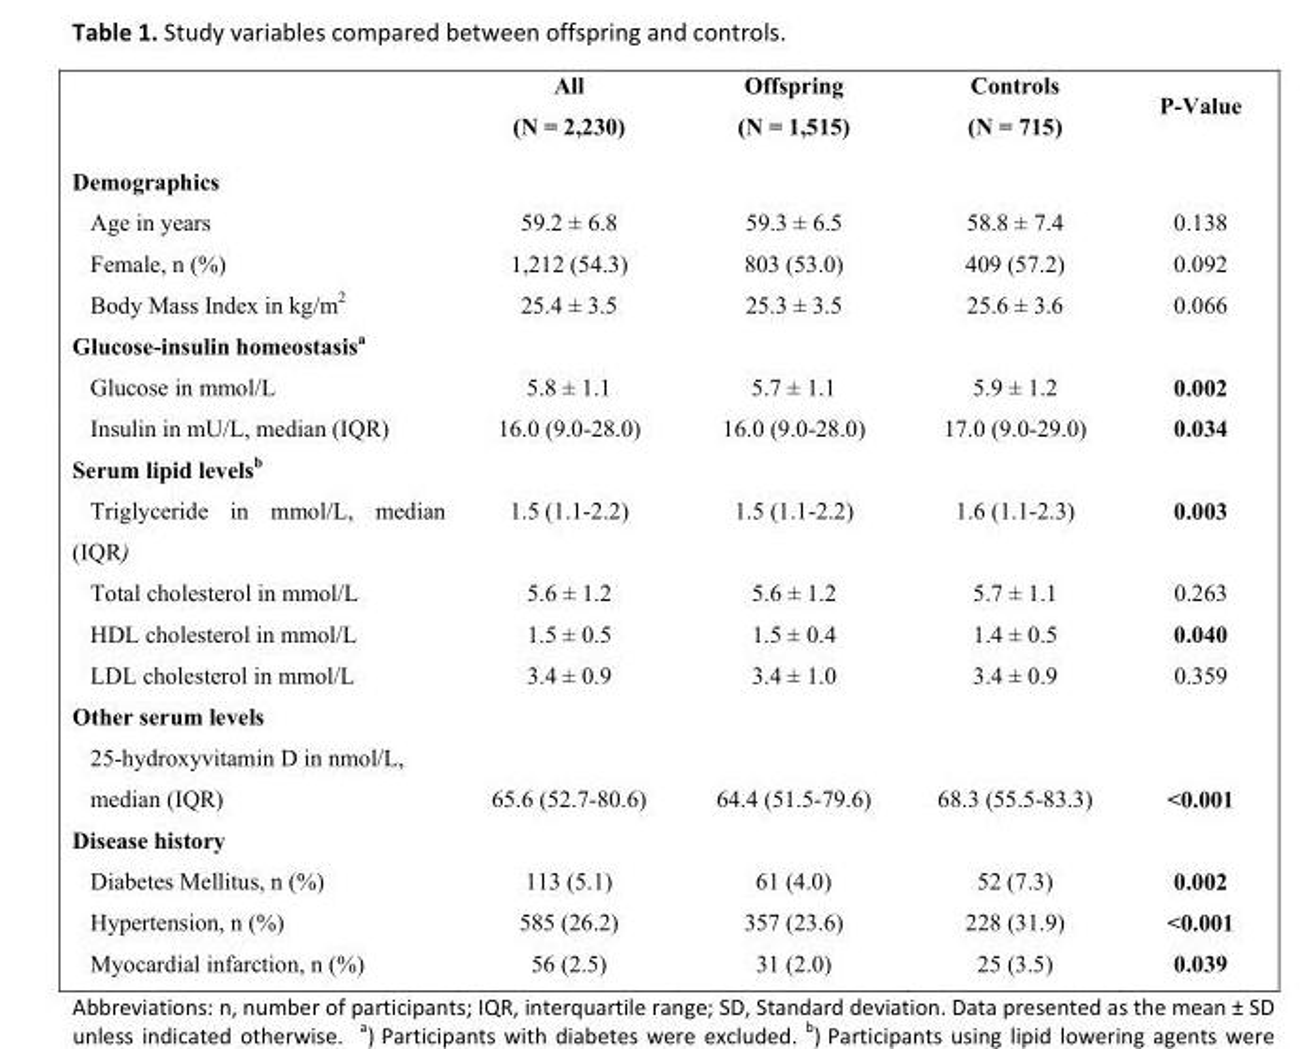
<table><thead><tr><td></td><td>All (N = 2,230)</td><td>Offspring (N = 1,515)</td><td>Controls (N = 715)</td><td>P-Value</td></tr></thead><tbody><tr><td colspan="5">Demographics</td></tr><tr><td>Age in years</td><td>59.2 ± 6.8</td><td>59.3 ± 6.5</td><td>58.8 ± 7.4</td><td>0.138</td></tr><tr><td>Female, n (%)</td><td>1,212 (54.3)</td><td>803 (53.0)</td><td>409 (57.2)</td><td>0.092</td></tr><tr><td>Body Mass Index in kg/m<sup>2</sup></td><td>25.4 ± 3.5</td><td>25.3 ± 3.5</td><td>25.6 ± 3.6</td><td>0.066</td></tr><tr><td colspan="5">Glucose-insulin homeostasis<sup>a</sup></td></tr><tr><td>Glucose in mmol/L</td><td>5.8 ± 1.1</td><td>5.7 ± 1.1</td><td>5.9 ± 1.2</td><td>0.002</td></tr><tr><td>Insulin in mU/L, median (IQR)</td><td>16.0 (9.0-28.0)</td><td>16.0 (9.0-28.0)</td><td>17.0 (9.0-29.0)</td><td>0.034</td></tr><tr><td colspan="5">Serum lipid levels<sup>b</sup></td></tr><tr><td>Triglyceride in mmol/L, median (IQR)</td><td>1.5 (1.1-2.2)</td><td>1.5 (1.1-2.2)</td><td>1.6 (1.1-2.3)</td><td>0.003</td></tr><tr><td>Total cholesterol in mmol/L</td><td>5.6 ± 1.2</td><td>5.6 ± 1.2</td><td>5.7 ± 1.1</td><td>0.263</td></tr><tr><td>HDL cholesterol in mmol/L</td><td>1.5 ± 0.5</td><td>1.5 ± 0.4</td><td>1.4 ± 0.5</td><td>0.040</td></tr><tr><td>LDL cholesterol in mmol/L</td><td>3.4 ± 0.9</td><td>3.4 ± 1.0</td><td>3.4 ± 0.9</td><td>0.359</td></tr><tr><td colspan="5">Other serum levels</td></tr><tr><td>25-hydroxyvitamin D in nmol/L, median (IQR)</td><td>65.6 (52.7-80.6)</td><td>64.4 (51.5-79.6)</td><td>68.3 (55.5-83.3)</td><td>&lt;0.001</td></tr><tr><td colspan="5">Disease history</td></tr><tr><td>Diabetes Mellitus, n (%)</td><td>113 (5.1)</td><td>61 (4.0)</td><td>52 (7.3)</td><td>0.002</td></tr><tr><td>Hypertension, n (%)</td><td>585 (26.2)</td><td>357 (23.6)</td><td>228 (31.9)</td><td>&lt;0.001</td></tr><tr><td>Myocardial infarction, n (%)</td><td>56 (2.5)</td><td>31 (2.0)</td><td>25 (3.5)</td><td>0.039</td></tr></tbody></table>